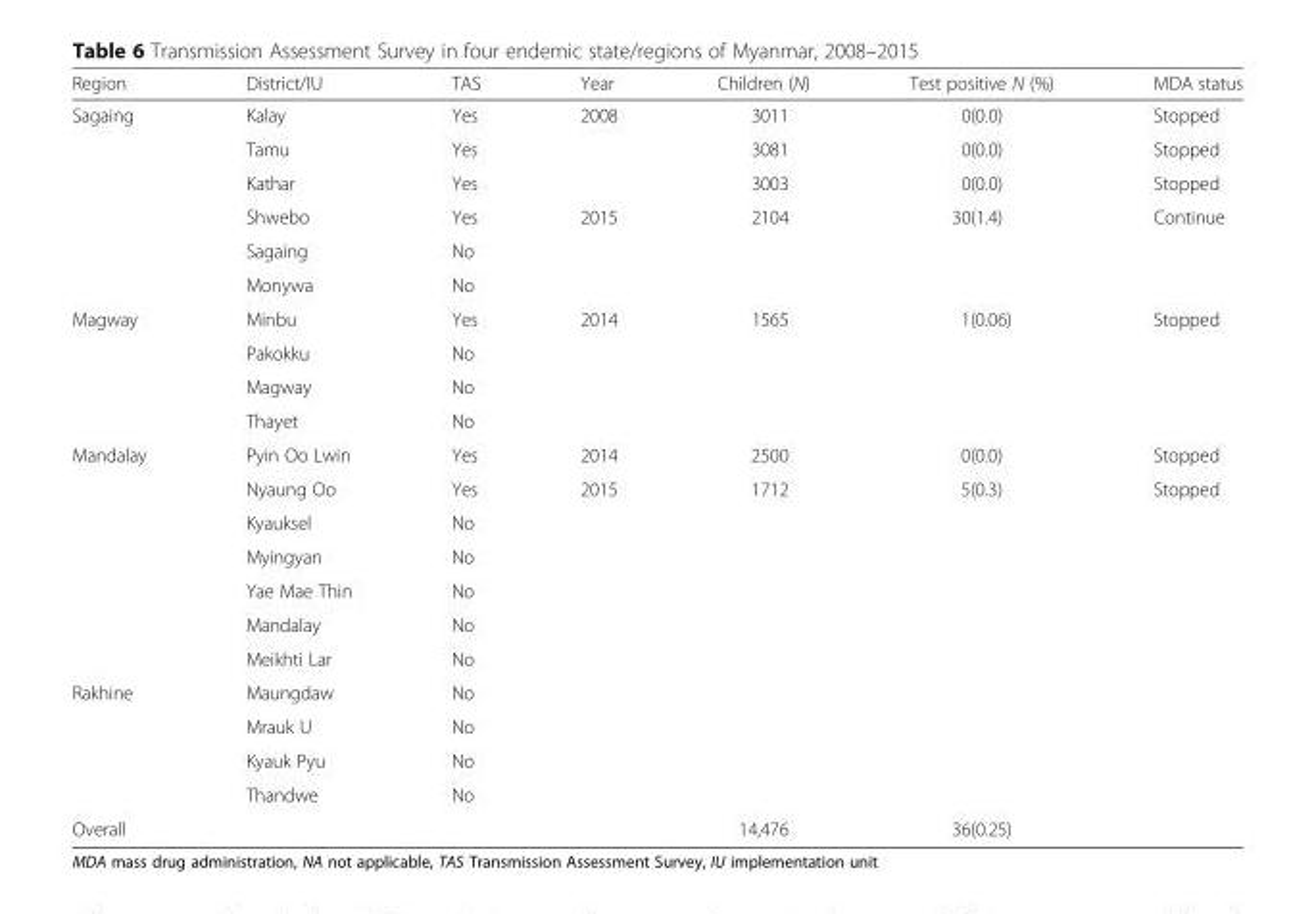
<table><thead><tr><td>Region</td><td>District/IU</td><td>TAS</td><td>Year</td><td>Children (N)</td><td>Test positive N (%)</td><td>MDA status</td></tr></thead><tbody><tr><td rowspan="6">Sagaing</td><td>Kalay</td><td>Yes</td><td>2008</td><td>3011</td><td>0(0.0)</td><td>Stopped</td></tr><tr><td>Tamu</td><td>Yes</td><td></td><td>3081</td><td>0(0.0)</td><td>Stopped</td></tr><tr><td>Kathar</td><td>Yes</td><td></td><td>3003</td><td>0(0.0)</td><td>Stopped</td></tr><tr><td>Shwebo</td><td>Yes</td><td>2015</td><td>2104</td><td>30(1.4)</td><td>Continue</td></tr><tr><td>Sagaing</td><td>No</td><td></td><td></td><td></td><td></td></tr><tr><td>Monywa</td><td>No</td><td></td><td></td><td></td><td></td></tr><tr><td rowspan="4">Magway</td><td>Minbu</td><td>Yes</td><td>2014</td><td>1565</td><td>1(0.06)</td><td>Stopped</td></tr><tr><td>Pakokku</td><td>No</td><td></td><td></td><td></td><td></td></tr><tr><td>Magway</td><td>No</td><td></td><td></td><td></td><td></td></tr><tr><td>Thayet</td><td>No</td><td></td><td></td><td></td><td></td></tr><tr><td rowspan="7">Mandalay</td><td>Pyin Oo Lwin</td><td>Yes</td><td>2014</td><td>2500</td><td>0(0.0)</td><td>Stopped</td></tr><tr><td>Nyaung Oo</td><td>Yes</td><td>2015</td><td>1712</td><td>5(0.3)</td><td>Stopped</td></tr><tr><td>Kyauksel</td><td>No</td><td></td><td></td><td></td><td></td></tr><tr><td>Myingyan</td><td>No</td><td></td><td></td><td></td><td></td></tr><tr><td>Yae Mae Thin</td><td>No</td><td></td><td></td><td></td><td></td></tr><tr><td>Mandalay</td><td>No</td><td></td><td></td><td></td><td></td></tr><tr><td>Meikhti Lar</td><td>No</td><td></td><td></td><td></td><td></td></tr><tr><td rowspan="4">Rakhine</td><td>Maungdaw</td><td>No</td><td></td><td></td><td></td><td></td></tr><tr><td>Mrauk U</td><td>No</td><td></td><td></td><td></td><td></td></tr><tr><td>Kyauk Pyu</td><td>No</td><td></td><td></td><td></td><td></td></tr><tr><td>Thandwe</td><td>No</td><td></td><td></td><td></td><td></td></tr><tr><td>Overall</td><td></td><td></td><td></td><td>14,476</td><td>36(0.25)</td><td></td></tr></tbody></table>